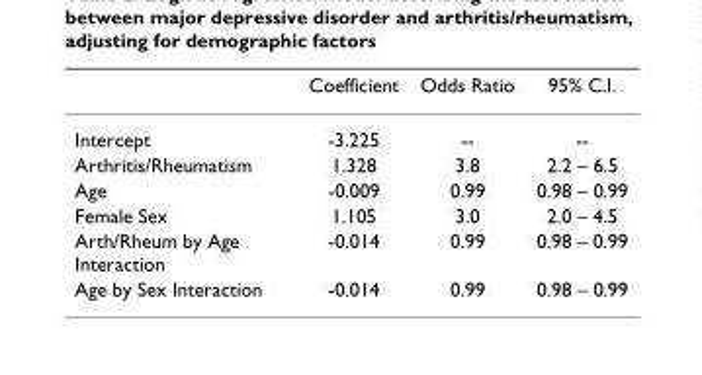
<table><thead><tr><td></td><td>Coefficient</td><td>Odds Ratio</td><td>95% C.I.</td></tr></thead><tbody><tr><td>Intercept</td><td>-3.225</td><td>--</td><td>--</td></tr><tr><td>Arthritis/Rheumatism</td><td>1.328</td><td>3.8</td><td>2.2 – 6.5</td></tr><tr><td>Age</td><td>-0.009</td><td>0.99</td><td>0.98 – 0.99</td></tr><tr><td>Female Sex</td><td>1.105</td><td>3.0</td><td>2.0 – 4.5</td></tr><tr><td>Arth/Rheum by Age Interaction</td><td>-0.014</td><td>0.99</td><td>0.98 – 0.99</td></tr><tr><td>Age by Sex Interaction</td><td>-0.014</td><td>0.99</td><td>0.98 – 0.99</td></tr></tbody></table>